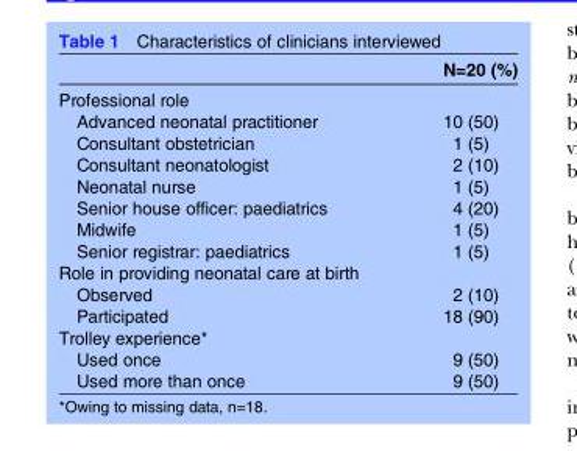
<table><thead><tr><td></td><td>N=20 (%)</td></tr></thead><tbody><tr><td colspan="2">Professional role</td></tr><tr><td>Advanced neonatal practitioner</td><td>10 (50)</td></tr><tr><td>Consultant obstetrician</td><td>1 (5)</td></tr><tr><td>Consultant neonatologist</td><td>2 (10)</td></tr><tr><td>Neonatal nurse</td><td>1 (5)</td></tr><tr><td>Senior house officer: paediatrics</td><td>4 (20)</td></tr><tr><td>Midwife</td><td>1 (5)</td></tr><tr><td>Senior registrar: paediatrics</td><td>1 (5)</td></tr><tr><td colspan="2">Role in providing neonatal care at birth</td></tr><tr><td>Observed</td><td>2 (10)</td></tr><tr><td>Participated</td><td>18 (90)</td></tr><tr><td colspan="2">Trolley experience*</td></tr><tr><td>Used once</td><td>9 (50)</td></tr><tr><td>Used more than once</td><td>9 (50)</td></tr></tbody></table>